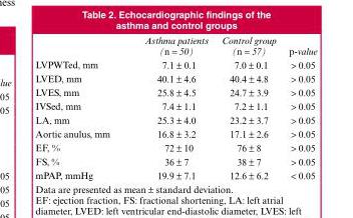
<table><thead><tr><td></td><td>Asthma patients (n = 50)</td><td>Control group (n = 57)</td><td>p-value</td></tr></thead><tbody><tr><td>LVPWTed, mm</td><td>7.1 ± 0.1</td><td>7.0 ± 0.1</td><td>&gt; 0.05</td></tr><tr><td>LVED, mm</td><td>40.1 ± 4.6</td><td>40.4 ± 4.8</td><td>&gt; 0.05</td></tr><tr><td>LVES, mm</td><td>25.8 ± 4.5</td><td>24.7 ± 3.9</td><td>&gt; 0.05</td></tr><tr><td>IVSed, mm</td><td>7.4 ± 1.1</td><td>7.2 ± 1.1</td><td>&gt; 0.05</td></tr><tr><td>LA, mm</td><td>25.3 ± 4.0</td><td>23.2 ± 3.7</td><td>&gt; 0.05</td></tr><tr><td>Aortic anulus, mm</td><td>16.8 ± 3.2</td><td>17.1 ± 2.6</td><td>&gt; 0.05</td></tr><tr><td>EF, %</td><td>72 ± 10</td><td>76 ± 8</td><td>&gt; 0.05</td></tr><tr><td>FS, %</td><td>36 ± 7</td><td>38 ± 7</td><td>&gt; 0.05</td></tr><tr><td>mPAP, mmHg</td><td>19.9 ± 7.1</td><td>12.6 ± 6.2</td><td>&lt; 0.05</td></tr></tbody></table>